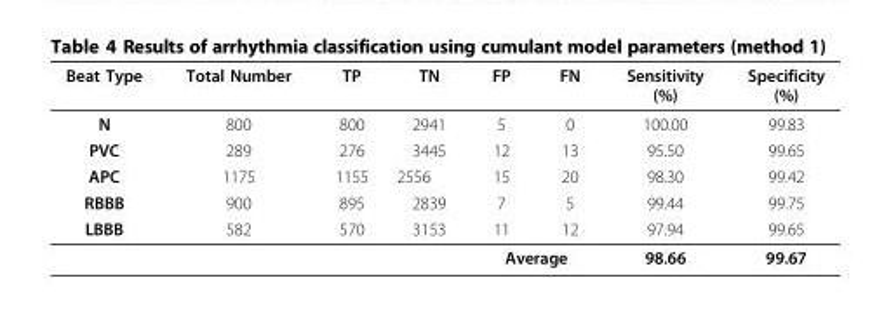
<table><thead><tr><td>Beat Type</td><td>Total Number</td><td>TP</td><td>TN</td><td>FP</td><td>FN</td><td>Sensitivity (%)</td><td>Specificity (%)</td></tr></thead><tbody><tr><td>N</td><td>800</td><td>800</td><td>2941</td><td>5</td><td>0</td><td>100.00</td><td>99.83</td></tr><tr><td>PVC</td><td>289</td><td>276</td><td>3445</td><td>12</td><td>13</td><td>95.50</td><td>99.65</td></tr><tr><td>APC</td><td>1175</td><td>1155</td><td>2556</td><td>15</td><td>20</td><td>98.30</td><td>99.42</td></tr><tr><td>RBBB</td><td>900</td><td>895</td><td>2839</td><td>7</td><td>5</td><td>99.44</td><td>99.75</td></tr><tr><td rowspan="2">LBBB</td><td>582</td><td>570</td><td>3153</td><td>11</td><td>12</td><td>97.94</td><td>99.65</td></tr><tr><td></td><td></td><td></td><td colspan="2">Average</td><td>98.66</td><td>99.67</td></tr></tbody></table>